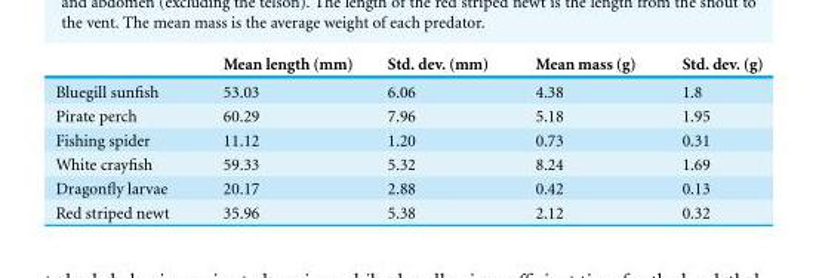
<table><thead><tr><td></td><td>Mean length (mm)</td><td>Std. dev. (mm)</td><td>Mean mass (g)</td><td>Std. dev. (g)</td></tr></thead><tbody><tr><td>Bluegill sunfish</td><td>53.03</td><td>6.06</td><td>4.38</td><td>1.8</td></tr><tr><td>Pirate perch</td><td>60.29</td><td>7.96</td><td>5.18</td><td>1.95</td></tr><tr><td>Fishing spider</td><td>11.12</td><td>1.20</td><td>0.73</td><td>0.31</td></tr><tr><td>White crayfish</td><td>59.33</td><td>5.32</td><td>8.24</td><td>1.69</td></tr><tr><td>Dragonfly larvae</td><td>20.17</td><td>2.88</td><td>0.42</td><td>0.13</td></tr><tr><td>Red striped newt</td><td>35.96</td><td>5.38</td><td>2.12</td><td>0.32</td></tr></tbody></table>